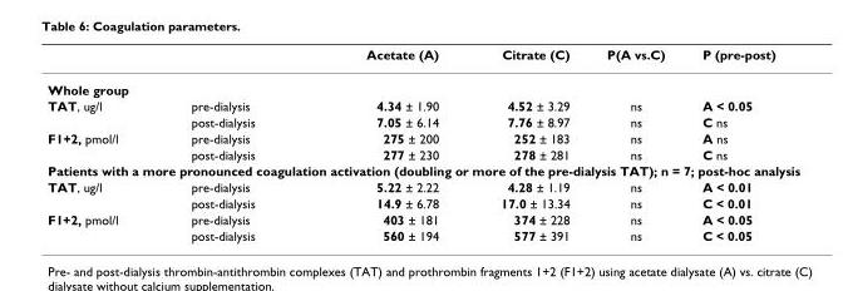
<table><thead><tr><td></td><td></td><td>Acetate (A)</td><td>Citrate (C)</td><td>P(A vs.C)</td><td>P (pre-post)</td></tr></thead><tbody><tr><td colspan="6">Whole group</td></tr><tr><td rowspan="2">TAT, ug/l</td><td>pre-dialysis</td><td>4.34 ± 1.90</td><td>4.52 ± 3.29</td><td>ns</td><td>A &lt; 0.05</td></tr><tr><td>post-dialysis</td><td>7.05 ± 6.14</td><td>7.76 ± 8.97</td><td>ns</td><td>C ns</td></tr><tr><td rowspan="2">F1+2, pmol/l</td><td>pre-dialysis</td><td>275 ± 200</td><td>252 ± 183</td><td>ns</td><td>A ns</td></tr><tr><td>post-dialysis</td><td>277 ± 230</td><td>278 ± 281</td><td>ns</td><td>C ns</td></tr><tr><td colspan="6">Patients with a more pronounced coagulation activation (doubling or more of the pre-dialysis TAT); n = 7; post-hoc analysis</td></tr><tr><td rowspan="2">TAT, ug/l</td><td>pre-dialysis</td><td>5.22 ± 2.22</td><td>4.28 ± 1.19</td><td>ns</td><td>A &lt; 0.01</td></tr><tr><td>post-dialysis</td><td>14.9 ± 6.78</td><td>17.0 ± 13.34</td><td>ns</td><td>C &lt; 0.01</td></tr><tr><td rowspan="2">F1+2, pmol/l</td><td>pre-dialysis</td><td>403 ± 181</td><td>374 ± 228</td><td>ns</td><td>A &lt; 0.05</td></tr><tr><td>post-dialysis</td><td>560 ± 194</td><td>577 ± 391</td><td>ns</td><td>C &lt; 0.05</td></tr></tbody></table>